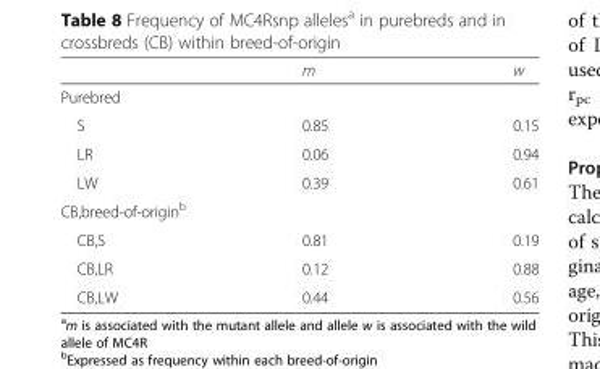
<table><thead><tr><td></td><td>m</td><td>w</td></tr></thead><tbody><tr><td colspan="3">Purebred</td></tr><tr><td>S</td><td>0.85</td><td>0.15</td></tr><tr><td>LR</td><td>0.06</td><td>0.94</td></tr><tr><td>LW</td><td>0.39</td><td>0.61</td></tr><tr><td colspan="3">CB,breed-of-origin<sup>b</sup></td></tr><tr><td>CB,S</td><td>0.81</td><td>0.19</td></tr><tr><td>CB,LR</td><td>0.12</td><td>0.88</td></tr><tr><td>CB,LW</td><td>0.44</td><td>0.56</td></tr></tbody></table>